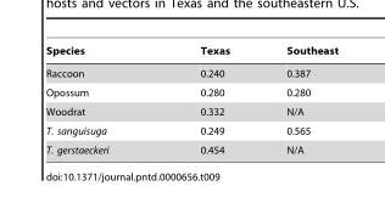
<table><thead><tr><td>Species</td><td>Texas</td><td>Southeast</td></tr></thead><tbody><tr><td>Raccoon</td><td>0.240</td><td>0.387</td></tr><tr><td>Opossum</td><td>0.280</td><td>0.280</td></tr><tr><td>Woodrat</td><td>0.332</td><td>N/A</td></tr><tr><td>T. sanguisuga</td><td>0.249</td><td>0.565</td></tr><tr><td>T. gerstaeckeri</td><td>0.454</td><td>N/A</td></tr></tbody></table>